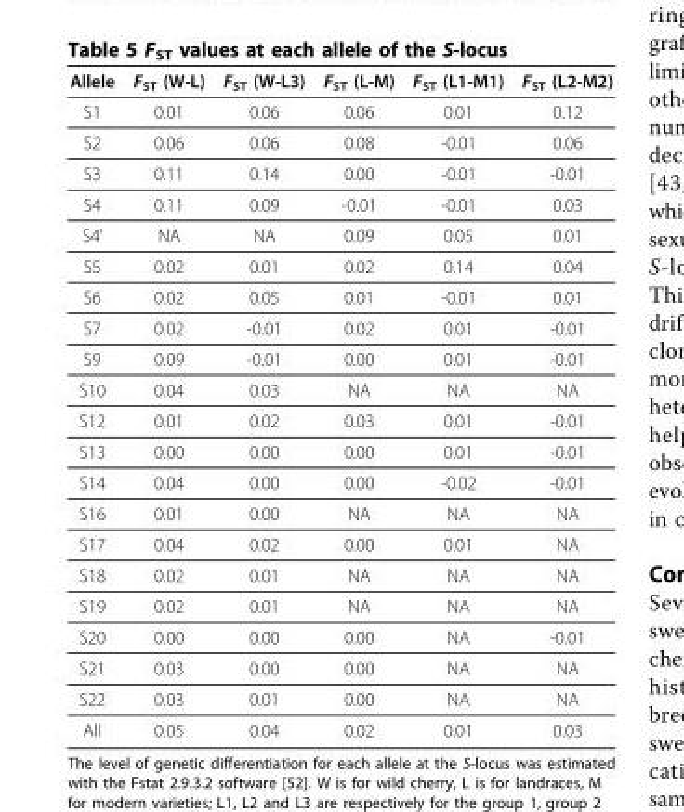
<table><thead><tr><td>Allele</td><td>F<sub>ST</sub> (W-L)</td><td>F<sub>ST</sub> (W-L3)</td><td>F<sub>ST</sub> (L-M)</td><td>F<sub>ST</sub> (L1-M1)</td><td>F<sub>ST</sub> (L2-M2)</td></tr></thead><tbody><tr><td>S1</td><td>0.01</td><td>0.06</td><td>0.06</td><td>0.01</td><td>0.12</td></tr><tr><td>S2</td><td>0.06</td><td>0.06</td><td>0.08</td><td>-0.01</td><td>0.06</td></tr><tr><td>S3</td><td>0.11</td><td>0.14</td><td>0.00</td><td>-0.01</td><td>-0.01</td></tr><tr><td>S4</td><td>0.11</td><td>0.09</td><td>-0.01</td><td>-0.01</td><td>0.03</td></tr><tr><td>S4’</td><td>NA</td><td>NA</td><td>0.09</td><td>0.05</td><td>0.01</td></tr><tr><td>S5</td><td>0.02</td><td>0.01</td><td>0.02</td><td>0.14</td><td>0.04</td></tr><tr><td>S6</td><td>0.02</td><td>0.05</td><td>0.01</td><td>-0.01</td><td>0.01</td></tr><tr><td>S7</td><td>0.02</td><td>-0.01</td><td>0.02</td><td>0.01</td><td>-0.01</td></tr><tr><td>S9</td><td>0.09</td><td>-0.01</td><td>0.00</td><td>0.01</td><td>-0.01</td></tr><tr><td>S10</td><td>0.04</td><td>0.03</td><td>NA</td><td>NA</td><td>NA</td></tr><tr><td>S12</td><td>0.01</td><td>0.02</td><td>0.03</td><td>0.01</td><td>-0.01</td></tr><tr><td>S13</td><td>0.00</td><td>0.00</td><td>0.00</td><td>0.01</td><td>-0.01</td></tr><tr><td>S14</td><td>0.04</td><td>0.00</td><td>0.00</td><td>-0.02</td><td>-0.01</td></tr><tr><td>S16</td><td>0.01</td><td>0.00</td><td>NA</td><td>NA</td><td>NA</td></tr><tr><td>S17</td><td>0.04</td><td>0.02</td><td>0.00</td><td>0.01</td><td>NA</td></tr><tr><td>S18</td><td>0.02</td><td>0.01</td><td>NA</td><td>NA</td><td>NA</td></tr><tr><td>S19</td><td>0.02</td><td>0.01</td><td>NA</td><td>NA</td><td>NA</td></tr><tr><td>S20</td><td>0.00</td><td>0.00</td><td>0.00</td><td>NA</td><td>-0.01</td></tr><tr><td>S21</td><td>0.03</td><td>0.00</td><td>0.00</td><td>NA</td><td>NA</td></tr><tr><td>S22</td><td>0.03</td><td>0.01</td><td>0.00</td><td>NA</td><td>NA</td></tr><tr><td>All</td><td>0.05</td><td>0.04</td><td>0.02</td><td>0.01</td><td>0.03</td></tr></tbody></table>